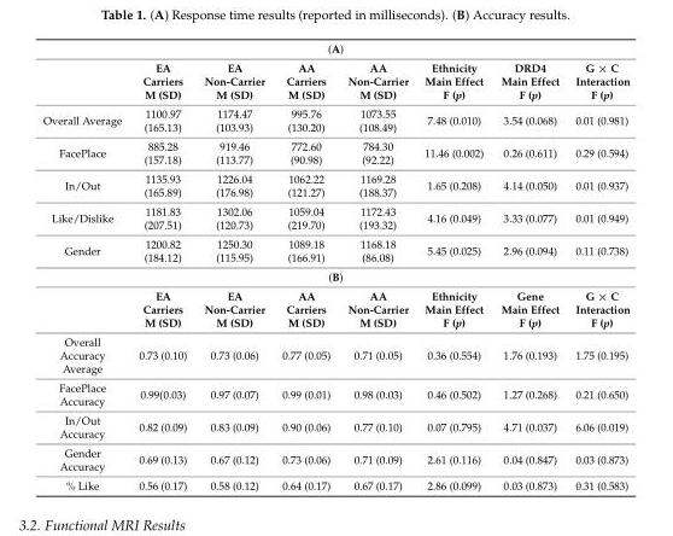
<table><tbody><tr><td colspan="8">(A)</td></tr><tr><td></td><td>EA Carriers M (SD)</td><td>EA Non-Carrier M (SD)</td><td>AA Carriers M (SD)</td><td>AA Non-Carrier M (SD)</td><td>Ethnicity Main Effect F (p)</td><td>DRD4 Main Effect F (p)</td><td>G × C Interaction F (p)</td></tr><tr><td>Overall Average</td><td>1100.97 (165.13)</td><td>1174.47 (103.93)</td><td>995.76 (130.20)</td><td>1073.55 (108.49)</td><td>7.48 (0.010)</td><td>3.54 (0.068)</td><td>0.01 (0.981)</td></tr><tr><td>FacePlace</td><td>885.28 (157.18)</td><td>919.46 (113.77)</td><td>772.60 (90.98)</td><td>784.30 (92.22)</td><td>11.46 (0.002)</td><td>0.26 (0.611)</td><td>0.29 (0.594)</td></tr><tr><td>In/Out</td><td>1135.93 (165.89)</td><td>1226.04 (176.98)</td><td>1062.22 (121.27)</td><td>1169.28 (188.37)</td><td>1.65 (0.208)</td><td>4.14 (0.050)</td><td>0.01 (0.937)</td></tr><tr><td>Like/Dislike</td><td>1181.83 (207.51)</td><td>1302.06 (120.73)</td><td>1059.04 (219.70)</td><td>1172.43 (193.32)</td><td>4.16 (0.049)</td><td>3.33 (0.077)</td><td>0.01 (0.949)</td></tr><tr><td>Gender</td><td>1200.82 (184.12)</td><td>1250.30 (115.95)</td><td>1089.18 (166.91)</td><td>1168.18 (86.08)</td><td>5.45 (0.025)</td><td>2.96 (0.094)</td><td>0.11 (0.738)</td></tr><tr><td colspan="8">(B)</td></tr><tr><td></td><td>EA Carriers M (SD)</td><td>EA Non-Carrier M (SD)</td><td>AA Carriers M (SD)</td><td>AA Non-Carrier M (SD)</td><td>Ethnicity Main Effect F (p)</td><td>Gene Main Effect F (p)</td><td>G × C Interaction F (p)</td></tr><tr><td>Overall Accuracy Average</td><td>0.73 (0.10)</td><td>0.73 (0.06)</td><td>0.77 (0.05)</td><td>0.71 (0.05)</td><td>0.36 (0.554)</td><td>1.76 (0.193)</td><td>1.75 (0.195)</td></tr><tr><td>FacePlace Accuracy</td><td>0.99(0.03)</td><td>0.97 (0.07)</td><td>0.99 (0.01)</td><td>0.98 (0.03)</td><td>0.46 (0.502)</td><td>1.27 (0.268)</td><td>0.21 (0.650)</td></tr><tr><td>In/Out Accuracy</td><td>0.82 (0.09)</td><td>0.83 (0.09)</td><td>0.90 (0.06)</td><td>0.77 (0.10)</td><td>0.07 (0.795)</td><td>4.71 (0.037)</td><td>6.06 (0.019)</td></tr><tr><td>Gender Accuracy</td><td>0.69 (0.13)</td><td>0.67 (0.12)</td><td>0.73 (0.06)</td><td>0.71 (0.09)</td><td>2.61 (0.116)</td><td>0.04 (0.847)</td><td>0.03 (0.873)</td></tr><tr><td>% Like</td><td>0.56 (0.17)</td><td>0.58 (0.12)</td><td>0.64 (0.17)</td><td>0.67 (0.17)</td><td>2.86 (0.099)</td><td>0.03 (0.873)</td><td>0.31 (0.583)</td></tr></tbody></table>